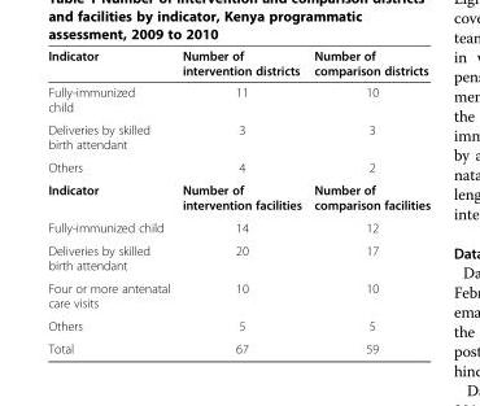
<table><thead><tr><td>Indicator</td><td>Number of intervention districts</td><td>Number of comparison districts</td></tr></thead><tbody><tr><td>Fully-immunized child</td><td>11</td><td>10</td></tr><tr><td>Deliveries by skilled birth attendant</td><td>3</td><td>3</td></tr><tr><td>Others</td><td>4</td><td>2</td></tr><tr><td>Indicator</td><td>Number of intervention facilities</td><td>Number of comparison facilities</td></tr><tr><td>Fully-immunized child</td><td>14</td><td>12</td></tr><tr><td>Deliveries by skilled birth attendant</td><td>20</td><td>17</td></tr><tr><td>Four or more antenatal care visits</td><td>10</td><td>10</td></tr><tr><td>Others</td><td>5</td><td>5</td></tr><tr><td>Total</td><td>67</td><td>59</td></tr></tbody></table>